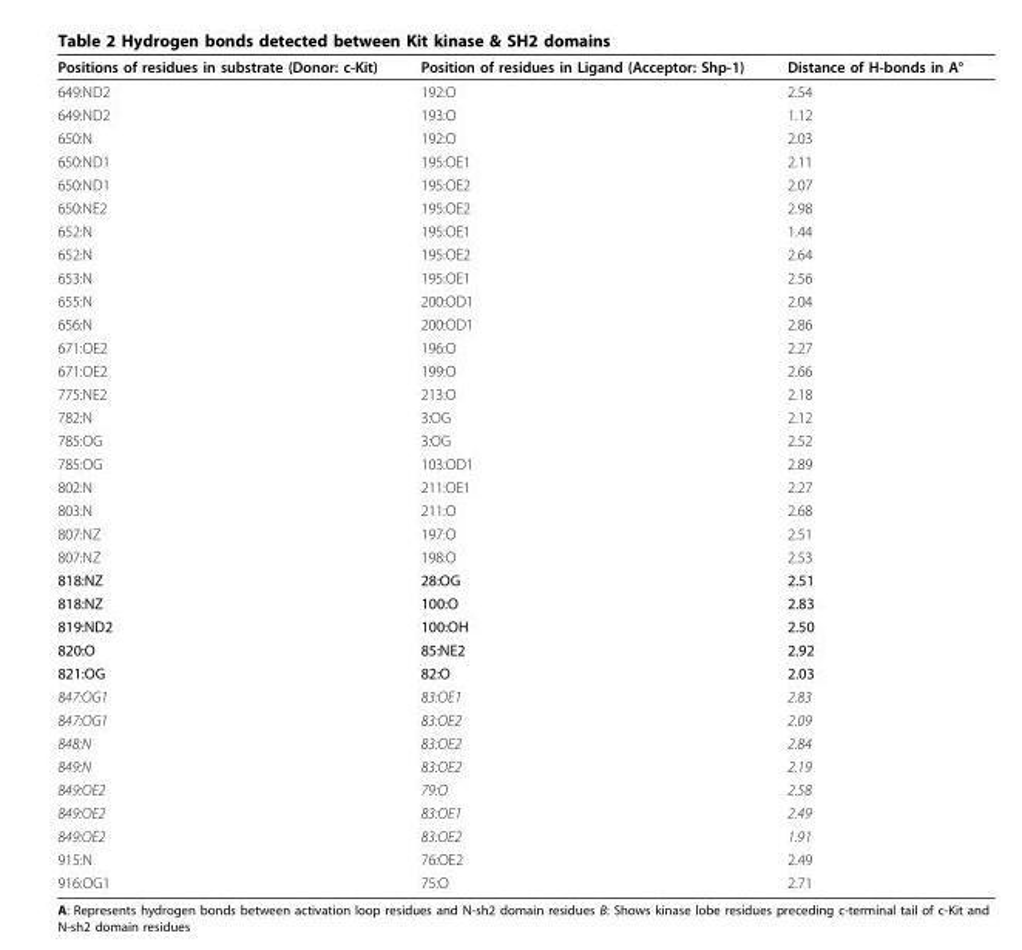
<table><thead><tr><td>Positions of residues in substrate (Donor: c-Kit)</td><td>Position of residues in Ligand (Acceptor: Shp-1)</td><td>Distance of H-bonds in A°</td></tr></thead><tbody><tr><td>649:ND2</td><td>192:O</td><td>2.54</td></tr><tr><td>649:ND2</td><td>193:O</td><td>1.12</td></tr><tr><td>650:N</td><td>192:O</td><td>2.03</td></tr><tr><td>650:ND1</td><td>195:OE1</td><td>2.11</td></tr><tr><td>650:ND1</td><td>195:OE2</td><td>2.07</td></tr><tr><td>650:NE2</td><td>195:OE2</td><td>2.98</td></tr><tr><td>652:N</td><td>195:OE1</td><td>1.44</td></tr><tr><td>652:N</td><td>195:OE2</td><td>2.64</td></tr><tr><td>653:N</td><td>195:OE1</td><td>2.56</td></tr><tr><td>655:N</td><td>200:OD1</td><td>2.04</td></tr><tr><td>656:N</td><td>200:OD1</td><td>2.86</td></tr><tr><td>671:OE2</td><td>196:O</td><td>2.27</td></tr><tr><td>671:OE2</td><td>199:O</td><td>2.66</td></tr><tr><td>775:NE2</td><td>213:O</td><td>2.18</td></tr><tr><td>782:N</td><td>3:OG</td><td>2.12</td></tr><tr><td>785:OG</td><td>3:OG</td><td>2.52</td></tr><tr><td>785:OG</td><td>103:OD1</td><td>2.89</td></tr><tr><td>802:N</td><td>211:OE1</td><td>2.27</td></tr><tr><td>803:N</td><td>211:O</td><td>2.68</td></tr><tr><td>807:NZ</td><td>197:O</td><td>2.51</td></tr><tr><td>807:NZ</td><td>198:O</td><td>2.53</td></tr><tr><td>818:NZ</td><td>28:OG</td><td>2.51</td></tr><tr><td>818:NZ</td><td>100:O</td><td>2.83</td></tr><tr><td>819:ND2</td><td>100:OH</td><td>2.50</td></tr><tr><td>820:O</td><td>85:NE2</td><td>2.92</td></tr><tr><td>821:OG</td><td>82:O</td><td>2.03</td></tr><tr><td>847:OG1</td><td>83:OE1</td><td>2.83</td></tr><tr><td>847:OG1</td><td>83:OE2</td><td>2.09</td></tr><tr><td>848:N</td><td>83:OE2</td><td>2.84</td></tr><tr><td>849:N</td><td>83:OE2</td><td>2.19</td></tr><tr><td>849:OE2</td><td>79:O</td><td>2.58</td></tr><tr><td>849:OE2</td><td>83:OE1</td><td>2.49</td></tr><tr><td>849:OE2</td><td>83:OE2</td><td>1.91</td></tr><tr><td>915:N</td><td>76:OE2</td><td>2.49</td></tr><tr><td>916:OG1</td><td>75:O</td><td>2.71</td></tr></tbody></table>